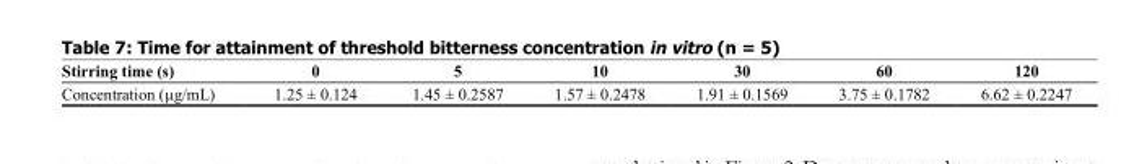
<table><thead><tr><td>Stirring time (s)</td><td>0</td><td>5</td><td>10</td><td>30</td><td>60</td><td>120</td></tr></thead><tbody><tr><td>Concentration (µg/mL)</td><td>1.25 ± 0.124</td><td>1.45 ± 0.2587</td><td>1.57 ± 0.2478</td><td>1.91 ± 0.1569</td><td>3.75 ± 0.1782</td><td>6.62 ± 0.2247</td></tr></tbody></table>